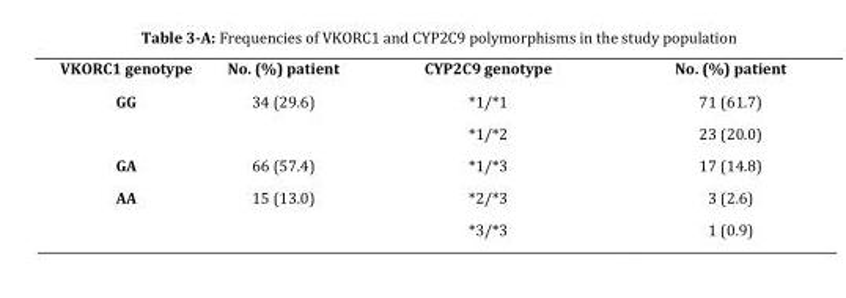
<table><tbody><tr><td>VKORC1 genotype</td><td>No. (%) patient</td><td>CYP2C9 genotype</td><td>No. (%) patient</td></tr><tr><td rowspan="2">GG</td><td rowspan="2">34 (29.6)</td><td>*1/*1</td><td>71 (61.7)</td></tr><tr><td>*1/*2</td><td>23 (20.0)</td></tr><tr><td>GA</td><td>66 (57.4)</td><td>*1/*3</td><td>17 (14.8)</td></tr><tr><td rowspan="2">AA</td><td rowspan="2">15 (13.0)</td><td>*2/*3</td><td>3 (2.6)</td></tr><tr><td>*3/*3</td><td>1 (0.9)</td></tr></tbody></table>